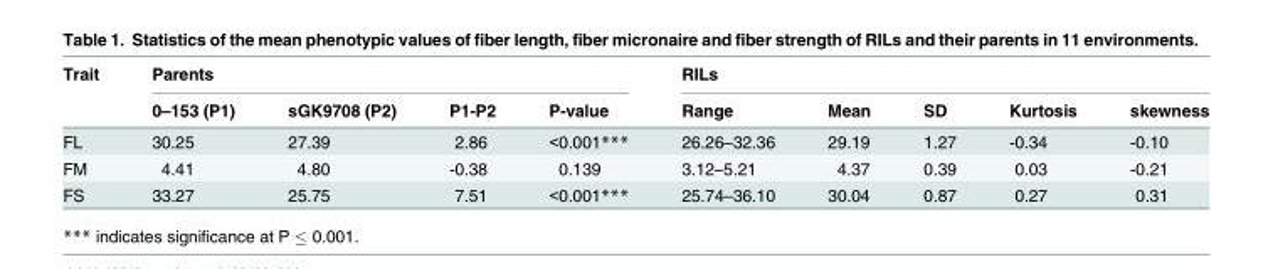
<table><thead><tr><td rowspan="2">Trait</td><td colspan="4">Parents</td><td colspan="5">RILs</td></tr><tr><td>0–153 (P1)</td><td>sGK9708 (P2)</td><td>P1-P2</td><td>P-value</td><td>Range</td><td>Mean</td><td>SD</td><td>Kurtosis</td><td>skewness</td></tr></thead><tbody><tr><td>FL</td><td>30.25</td><td>27.39</td><td>2.86</td><td>&lt;0.001***</td><td>26.26–32.36</td><td>29.19</td><td>1.27</td><td>-0.34</td><td>-0.10</td></tr><tr><td>FM</td><td>4.41</td><td>4.80</td><td>-0.38</td><td>0.139</td><td>3.12–5.21</td><td>4.37</td><td>0.39</td><td>0.03</td><td>-0.21</td></tr><tr><td>FS</td><td>33.27</td><td>25.75</td><td>7.51</td><td>&lt;0.001***</td><td>25.74–36.10</td><td>30.04</td><td>0.87</td><td>0.27</td><td>0.31</td></tr></tbody></table>